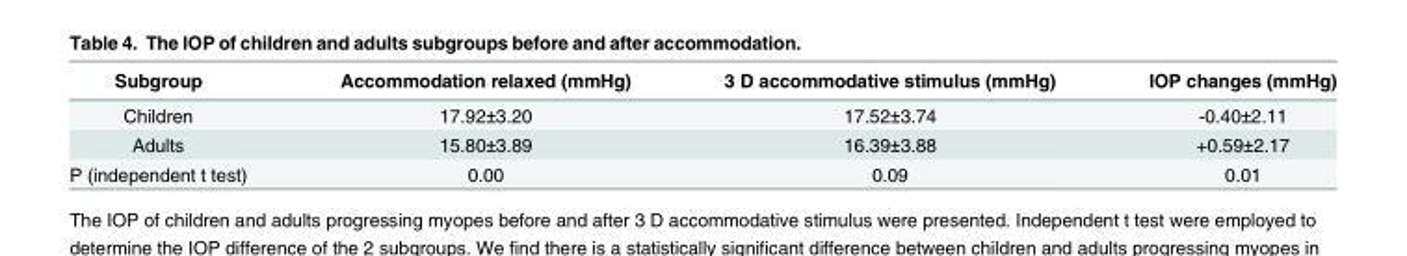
<table><thead><tr><td>Subgroup</td><td>Accommodation relaxed (mmHg)</td><td>3 D accommodative stimulus (mmHg)</td><td>IOP changes (mmHg)</td></tr></thead><tbody><tr><td>Children</td><td>17.92±3.20</td><td>17.52±3.74</td><td>-0.40±2.11</td></tr><tr><td>Adults</td><td>15.80±3.89</td><td>16.39±3.88</td><td>+0.59±2.17</td></tr><tr><td>P (independent t test)</td><td>0.00</td><td>0.09</td><td>0.01</td></tr></tbody></table>